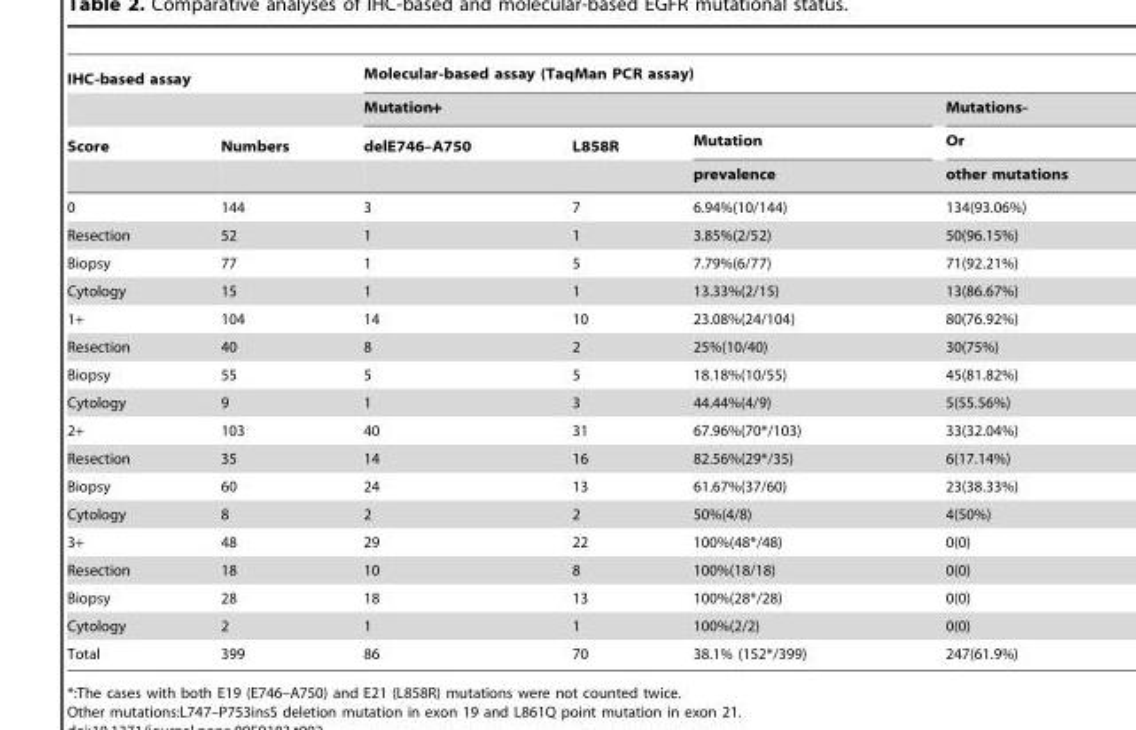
<table><thead><tr><td colspan="2">IHC-based assay</td><td colspan="4">Molecular-based assay (TaqMan PCR assay)</td></tr><tr><td rowspan="3">Score</td><td rowspan="3">Numbers</td><td colspan="3">Mutation+</td><td rowspan="3">Mutations- Or other mutations</td></tr><tr><td rowspan="2">delE746–A750</td><td rowspan="2">L858R</td><td rowspan="2">Mutation prevalence</td></tr><tr></tr></thead><tbody><tr><td>0</td><td>144</td><td>3</td><td>7</td><td>6.94%(10/144)</td><td>134(93.06%)</td></tr><tr><td>Resection</td><td>52</td><td>1</td><td>1</td><td>3.85%(2/52)</td><td>50(96.15%)</td></tr><tr><td>Biopsy</td><td>77</td><td>1</td><td>5</td><td>7.79%(6/77)</td><td>71(92.21%)</td></tr><tr><td>Cytology</td><td>15</td><td>1</td><td>1</td><td>13.33%(2/15)</td><td>13(86.67%)</td></tr><tr><td>1+</td><td>104</td><td>14</td><td>10</td><td>23.08%(24/104)</td><td>80(76.92%)</td></tr><tr><td>Resection</td><td>40</td><td>8</td><td>2</td><td>25%(10/40)</td><td>30(75%)</td></tr><tr><td>Biopsy</td><td>55</td><td>5</td><td>5</td><td>18.18%(10/55)</td><td>45(81.82%)</td></tr><tr><td>Cytology</td><td>9</td><td>1</td><td>3</td><td>44.44%(4/9)</td><td>5(55.56%)</td></tr><tr><td>2+</td><td>103</td><td>40</td><td>31</td><td>67.96%(70*/103)</td><td>33(32.04%)</td></tr><tr><td>Resection</td><td>35</td><td>14</td><td>16</td><td>82.56%(29*/35)</td><td>6(17.14%)</td></tr><tr><td>Biopsy</td><td>60</td><td>24</td><td>13</td><td>61.67%(37/60)</td><td>23(38.33%)</td></tr><tr><td>Cytology</td><td>8</td><td>2</td><td>2</td><td>50%(4/8)</td><td>4(50%)</td></tr><tr><td>3+</td><td>48</td><td>29</td><td>22</td><td>100%(48*/48)</td><td>0(0)</td></tr><tr><td>Resection</td><td>18</td><td>10</td><td>8</td><td>100%(18/18)</td><td>0(0)</td></tr><tr><td>Biopsy</td><td>28</td><td>18</td><td>13</td><td>100%(28*/28)</td><td>0(0)</td></tr><tr><td>Cytology</td><td>2</td><td>1</td><td>1</td><td>100%(2/2)</td><td>0(0)</td></tr><tr><td>Total</td><td>399</td><td>86</td><td>70</td><td>38.1% (152*/399)</td><td>247(61.9%)</td></tr></tbody></table>